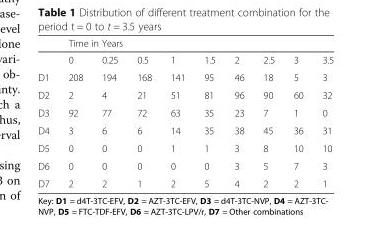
<table><thead><tr><td rowspan="2"></td><td colspan="9">Time in Years</td></tr><tr><td>0</td><td>0.25</td><td>0.5</td><td>1</td><td>1.5</td><td>2</td><td>2.5</td><td>3</td><td>3.5</td></tr></thead><tbody><tr><td>D1</td><td>208</td><td>194</td><td>168</td><td>141</td><td>95</td><td>46</td><td>18</td><td>5</td><td>3</td></tr><tr><td>D2</td><td>2</td><td>4</td><td>21</td><td>51</td><td>81</td><td>96</td><td>90</td><td>60</td><td>32</td></tr><tr><td>D3</td><td>92</td><td>77</td><td>72</td><td>63</td><td>35</td><td>23</td><td>7</td><td>1</td><td>0</td></tr><tr><td>D4</td><td>3</td><td>6</td><td>6</td><td>14</td><td>35</td><td>38</td><td>45</td><td>36</td><td>31</td></tr><tr><td>D5</td><td>0</td><td>0</td><td>0</td><td>1</td><td>1</td><td>3</td><td>8</td><td>10</td><td>10</td></tr><tr><td>D6</td><td>0</td><td>0</td><td>0</td><td>0</td><td>0</td><td>3</td><td>5</td><td>7</td><td>3</td></tr><tr><td>D7</td><td>2</td><td>2</td><td>1</td><td>2</td><td>5</td><td>4</td><td>2</td><td>2</td><td>1</td></tr></tbody></table>